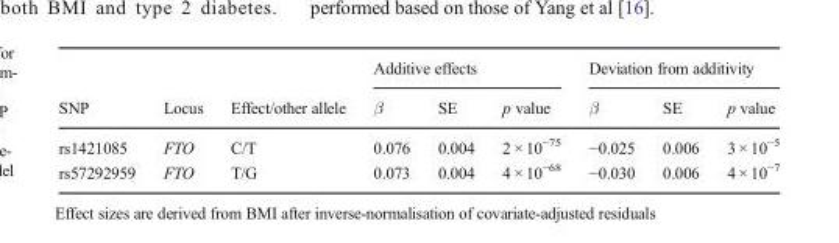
<table><thead><tr><td rowspan="2">SNP</td><td rowspan="2">Locus</td><td rowspan="2">Effect/other allele</td><td colspan="3">Additive effects</td><td colspan="3">Deviation from additivity</td></tr><tr><td>β</td><td>SE</td><td>p value</td><td>β</td><td>SE</td><td>p value</td></tr></thead><tbody><tr><td>rs1421085</td><td>FTO</td><td>C/T</td><td>0.076</td><td>0.004</td><td>2 × 10<sup>−75</sup></td><td>−0.025</td><td>0.006</td><td>3 × 10<sup>−5</sup></td></tr><tr><td>rs57292959</td><td>FTO</td><td>T/G</td><td>0.073</td><td>0.004</td><td>4 × 10<sup>−68</sup></td><td>−0.030</td><td>0.006</td><td>4 × 10<sup>−7</sup></td></tr></tbody></table>